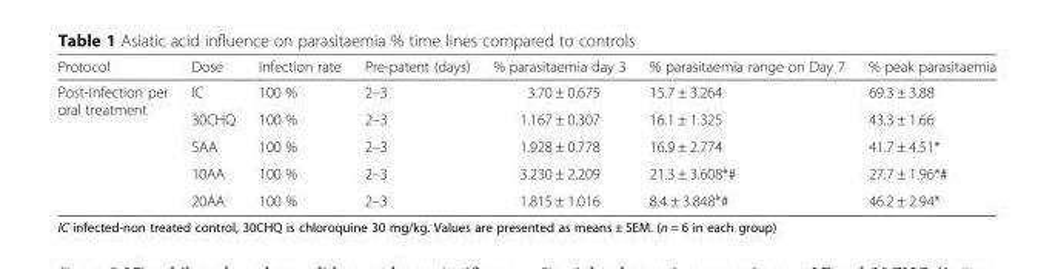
<table><thead><tr><td>Protocol</td><td>Dose</td><td>Infection rate</td><td>Pre-patent (days)</td><td>% parasitaemia day 3</td><td>% parasitaemia range on Day 7</td><td>% peak parasitaemia</td></tr></thead><tbody><tr><td rowspan="5">Post-Infection per oral treatment</td><td>IC</td><td>100 %</td><td>2–3</td><td>3.70 ± 0.675</td><td>15.7 ± 3.264</td><td>69.3 ± 3.88</td></tr><tr><td>30CHQ</td><td>100 %</td><td>2–3</td><td>1.167 ± 0.307</td><td>16.1 ± 1.325</td><td>43.3 ± 1.66</td></tr><tr><td>5AA</td><td>100 %</td><td>2–3</td><td>1.928 ± 0.778</td><td>16.9 ± 2.774</td><td>41.7 ± 4.51*</td></tr><tr><td>10AA</td><td>100 %</td><td>2–3</td><td>3.230 ± 2.209</td><td>21.3 ± 3.608*#</td><td>27.7 ± 1.96*#</td></tr><tr><td>20AA</td><td>100 %</td><td>2–3</td><td>1.815 ± 1.016</td><td>8.4 ± 3.848*#</td><td>46.2 ± 2.94*</td></tr></tbody></table>